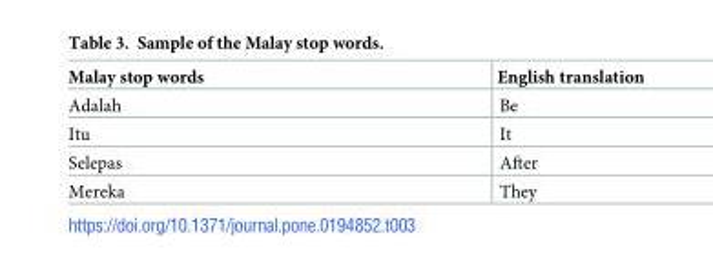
<table><thead><tr><td>Malay stop words</td><td>English translation</td></tr></thead><tbody><tr><td>Adalah</td><td>Be</td></tr><tr><td>Itu</td><td>It</td></tr><tr><td>Selepas</td><td>After</td></tr><tr><td>Mereka</td><td>They</td></tr></tbody></table>